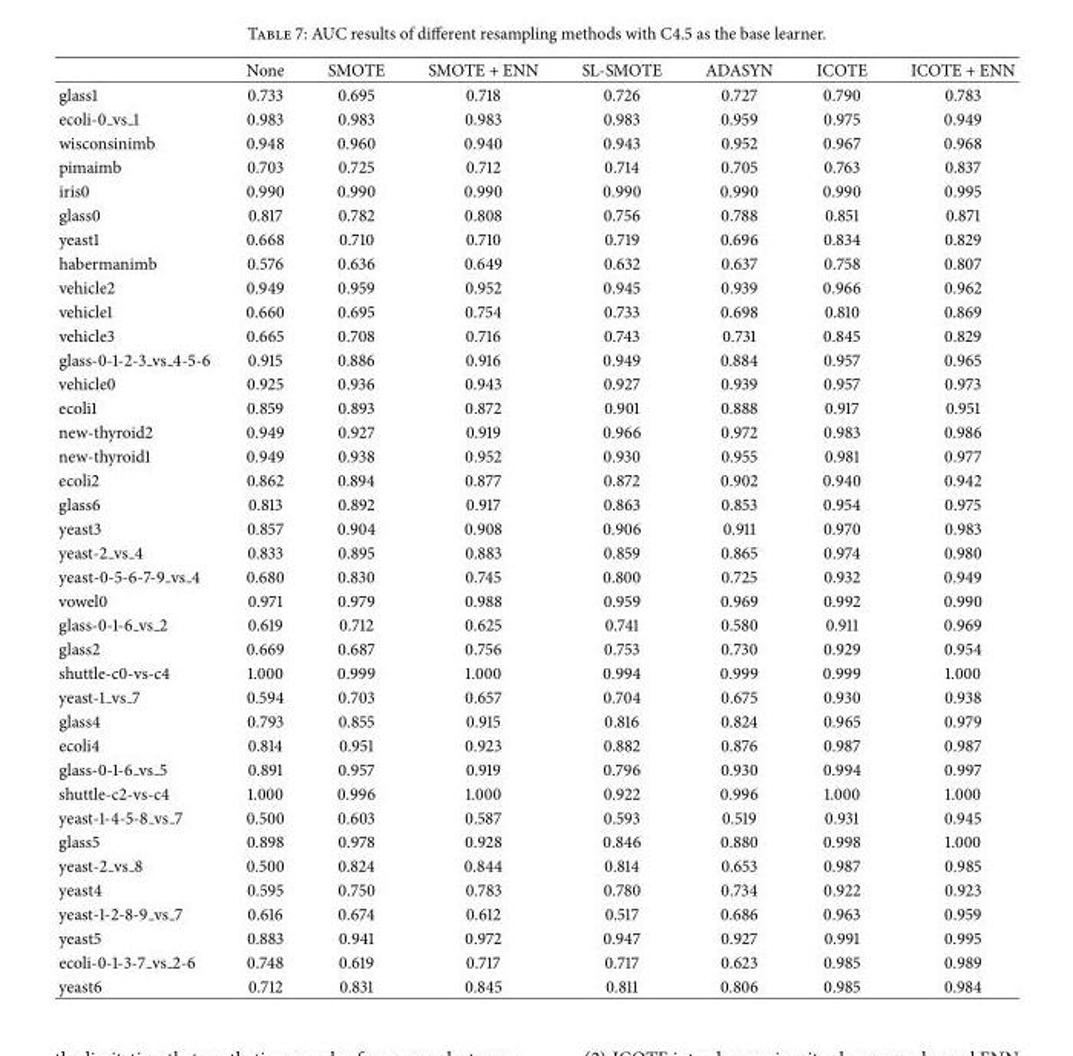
<table><thead><tr><td></td><td>None</td><td>SMOTE</td><td>SMOTE + ENN</td><td>SL-SMOTE</td><td>ADASYN</td><td>ICOTE</td><td>ICOTE + ENN</td></tr></thead><tbody><tr><td>glass1</td><td>0.733</td><td>0.695</td><td>0.718</td><td>0.726</td><td>0.727</td><td>0.790</td><td>0.783</td></tr><tr><td>ecoli-0 <sub>vs</sub> 1</td><td>0.983</td><td>0.983</td><td>0.983</td><td>0.983</td><td>0.959</td><td>0.975</td><td>0.949</td></tr><tr><td>wisconsinimb</td><td>0.948</td><td>0.960</td><td>0.940</td><td>0.943</td><td>0.952</td><td>0.967</td><td>0.968</td></tr><tr><td>pimaimb</td><td>0.703</td><td>0.725</td><td>0.712</td><td>0.714</td><td>0.705</td><td>0.763</td><td>0.837</td></tr><tr><td>iris0</td><td>0.990</td><td>0.990</td><td>0.990</td><td>0.990</td><td>0.990</td><td>0.990</td><td>0.995</td></tr><tr><td>glass0</td><td>0.817</td><td>0.782</td><td>0.808</td><td>0.756</td><td>0.788</td><td>0.851</td><td>0.871</td></tr><tr><td>yeast1</td><td>0.668</td><td>0.710</td><td>0.710</td><td>0.719</td><td>0.696</td><td>0.834</td><td>0.829</td></tr><tr><td>habermanimb</td><td>0.576</td><td>0.636</td><td>0.649</td><td>0.632</td><td>0.637</td><td>0.758</td><td>0.807</td></tr><tr><td>vehicle2</td><td>0.949</td><td>0.959</td><td>0.952</td><td>0.945</td><td>0.939</td><td>0.966</td><td>0.962</td></tr><tr><td>vehicle1</td><td>0.660</td><td>0.695</td><td>0.754</td><td>0.733</td><td>0.698</td><td>0.810</td><td>0.869</td></tr><tr><td>vehicle3</td><td>0.665</td><td>0.708</td><td>0.716</td><td>0.743</td><td>0.731</td><td>0.845</td><td>0.829</td></tr><tr><td>glass-0-1-2-3 <sub>vs</sub> 4-5-6</td><td>0.915</td><td>0.886</td><td>0.916</td><td>0.949</td><td>0.884</td><td>0.957</td><td>0.965</td></tr><tr><td>vehicle0</td><td>0.925</td><td>0.936</td><td>0.943</td><td>0.927</td><td>0.939</td><td>0.957</td><td>0.973</td></tr><tr><td>ecoli1</td><td>0.859</td><td>0.893</td><td>0.872</td><td>0.901</td><td>0.888</td><td>0.917</td><td>0.951</td></tr><tr><td>new-thyroid2</td><td>0.949</td><td>0.927</td><td>0.919</td><td>0.966</td><td>0.972</td><td>0.983</td><td>0.986</td></tr><tr><td>new-thyroid1</td><td>0.949</td><td>0.938</td><td>0.952</td><td>0.930</td><td>0.955</td><td>0.981</td><td>0.977</td></tr><tr><td>ecoli2</td><td>0.862</td><td>0.894</td><td>0.877</td><td>0.872</td><td>0.902</td><td>0.940</td><td>0.942</td></tr><tr><td>glass6</td><td>0.813</td><td>0.892</td><td>0.917</td><td>0.863</td><td>0.853</td><td>0.954</td><td>0.975</td></tr><tr><td>yeast3</td><td>0.857</td><td>0.904</td><td>0.908</td><td>0.906</td><td>0.911</td><td>0.970</td><td>0.983</td></tr><tr><td>yeast-2 <sub>vs</sub> 4</td><td>0.833</td><td>0.895</td><td>0.883</td><td>0.859</td><td>0.865</td><td>0.974</td><td>0.980</td></tr><tr><td>yeast-0-5-6-7-9 <sub>vs</sub> 4</td><td>0.680</td><td>0.830</td><td>0.745</td><td>0.800</td><td>0.725</td><td>0.932</td><td>0.949</td></tr><tr><td>vowel0</td><td>0.971</td><td>0.979</td><td>0.988</td><td>0.959</td><td>0.969</td><td>0.992</td><td>0.990</td></tr><tr><td>glass-0-1-6 <sub>vs</sub> 2</td><td>0.619</td><td>0.712</td><td>0.625</td><td>0.741</td><td>0.580</td><td>0.911</td><td>0.969</td></tr><tr><td>glass2</td><td>0.669</td><td>0.687</td><td>0.756</td><td>0.753</td><td>0.730</td><td>0.929</td><td>0.954</td></tr><tr><td>shuttle-c0-vs-c4</td><td>1.000</td><td>0.999</td><td>1.000</td><td>0.994</td><td>0.999</td><td>0.999</td><td>1.000</td></tr><tr><td>yeast-1 <sub>vs</sub> 7</td><td>0.594</td><td>0.703</td><td>0.657</td><td>0.704</td><td>0.675</td><td>0.930</td><td>0.938</td></tr><tr><td>glass4</td><td>0.793</td><td>0.855</td><td>0.915</td><td>0.816</td><td>0.824</td><td>0.965</td><td>0.979</td></tr><tr><td>ecoli4</td><td>0.814</td><td>0.951</td><td>0.923</td><td>0.882</td><td>0.876</td><td>0.987</td><td>0.987</td></tr><tr><td>glass-0-1-6 <sub>vs</sub> 5</td><td>0.891</td><td>0.957</td><td>0.919</td><td>0.796</td><td>0.930</td><td>0.994</td><td>0.997</td></tr><tr><td>shuttle-c2-vs-c4</td><td>1.000</td><td>0.996</td><td>1.000</td><td>0.922</td><td>0.996</td><td>1.000</td><td>1.000</td></tr><tr><td>yeast-1-4-5-8 <sub>vs</sub> 7</td><td>0.500</td><td>0.603</td><td>0.587</td><td>0.593</td><td>0.519</td><td>0.931</td><td>0.945</td></tr><tr><td>glass5</td><td>0.898</td><td>0.978</td><td>0.928</td><td>0.846</td><td>0.880</td><td>0.998</td><td>1.000</td></tr><tr><td>yeast-2 <sub>vs</sub> 8</td><td>0.500</td><td>0.824</td><td>0.844</td><td>0.814</td><td>0.653</td><td>0.987</td><td>0.985</td></tr><tr><td>yeast4</td><td>0.595</td><td>0.750</td><td>0.783</td><td>0.780</td><td>0.734</td><td>0.922</td><td>0.923</td></tr><tr><td>yeast-1-2-8-9 <sub>vs</sub> 7</td><td>0.616</td><td>0.674</td><td>0.612</td><td>0.517</td><td>0.686</td><td>0.963</td><td>0.959</td></tr><tr><td>yeast5</td><td>0.883</td><td>0.941</td><td>0.972</td><td>0.947</td><td>0.927</td><td>0.991</td><td>0.995</td></tr><tr><td>ecoli-0-1-3-7 <sub>vs</sub> 2-6</td><td>0.748</td><td>0.619</td><td>0.717</td><td>0.717</td><td>0.623</td><td>0.985</td><td>0.989</td></tr><tr><td>yeast6</td><td>0.712</td><td>0.831</td><td>0.845</td><td>0.811</td><td>0.806</td><td>0.985</td><td>0.984</td></tr></tbody></table>